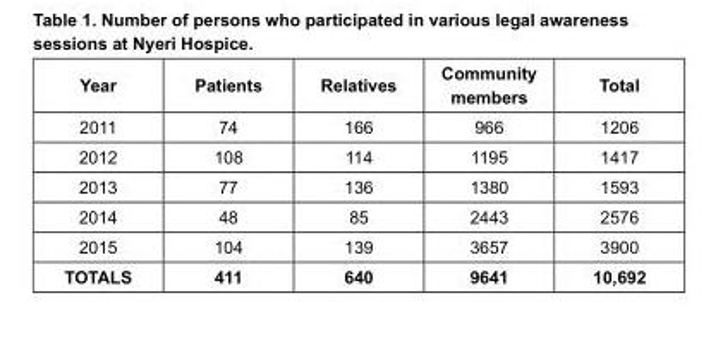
<table><thead><tr><td>Year</td><td>Patients</td><td>Relatives</td><td>Community members</td><td>Total</td></tr></thead><tbody><tr><td>2011</td><td>74</td><td>166</td><td>966</td><td>1206</td></tr><tr><td>2012</td><td>108</td><td>114</td><td>1195</td><td>1417</td></tr><tr><td>2013</td><td>77</td><td>136</td><td>1380</td><td>1593</td></tr><tr><td>2014</td><td>48</td><td>85</td><td>2443</td><td>2576</td></tr><tr><td>2015</td><td>104</td><td>139</td><td>3657</td><td>3900</td></tr><tr><td>TOTALS</td><td>411</td><td>640</td><td>9641</td><td>10,692</td></tr></tbody></table>